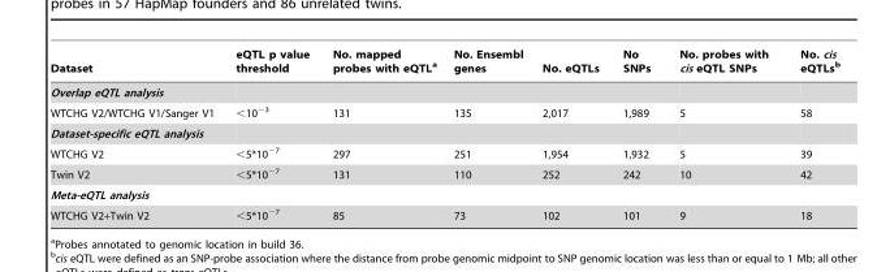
<table><thead><tr><td>Dataset</td><td>eQTL p value threshold</td><td>No. mapped probes with eQTL<sup>a</sup></td><td>No. Ensembl genes</td><td>No. eQTLs</td><td>No SNPs</td><td>No. probes with cis eQTL SNPs</td><td>No. cis eQTLs<sup>b</sup></td></tr></thead><tbody><tr><td colspan="8">Overlap eQTL analysis</td></tr><tr><td>WTCHG V2/WTCHG V1/Sanger V1</td><td>&lt;10<sup>−3</sup></td><td>131</td><td>135</td><td>2,017</td><td>1,989</td><td>5</td><td>58</td></tr><tr><td colspan="8">Dataset-specific eQTL analysis</td></tr><tr><td>WTCHG V2</td><td>&lt;5*10<sup>−7</sup></td><td>297</td><td>251</td><td>1,954</td><td>1,932</td><td>5</td><td>39</td></tr><tr><td>Twin V2</td><td>&lt;5*10<sup>−7</sup></td><td>131</td><td>110</td><td>252</td><td>242</td><td>10</td><td>42</td></tr><tr><td colspan="8">Meta-eQTL analysis</td></tr><tr><td>WTCHG V2+Twin V2</td><td>&lt;5*10<sup>−7</sup></td><td>85</td><td>73</td><td>102</td><td>101</td><td>9</td><td>18</td></tr></tbody></table>